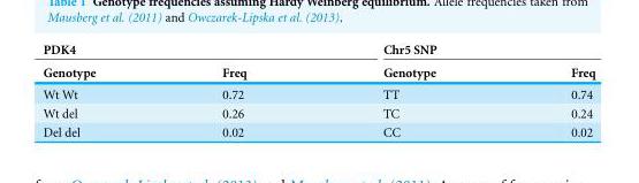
<table><thead><tr><td colspan="2">PDK4</td><td colspan="2">Chr5 SNP</td></tr><tr><td>Genotype</td><td>Freq</td><td>Genotype</td><td>Freq</td></tr></thead><tbody><tr><td>Wt Wt</td><td>0.72</td><td>TT</td><td>0.74</td></tr><tr><td>Wt del</td><td>0.26</td><td>TC</td><td>0.24</td></tr><tr><td>Del del</td><td>0.02</td><td>CC</td><td>0.02</td></tr></tbody></table>